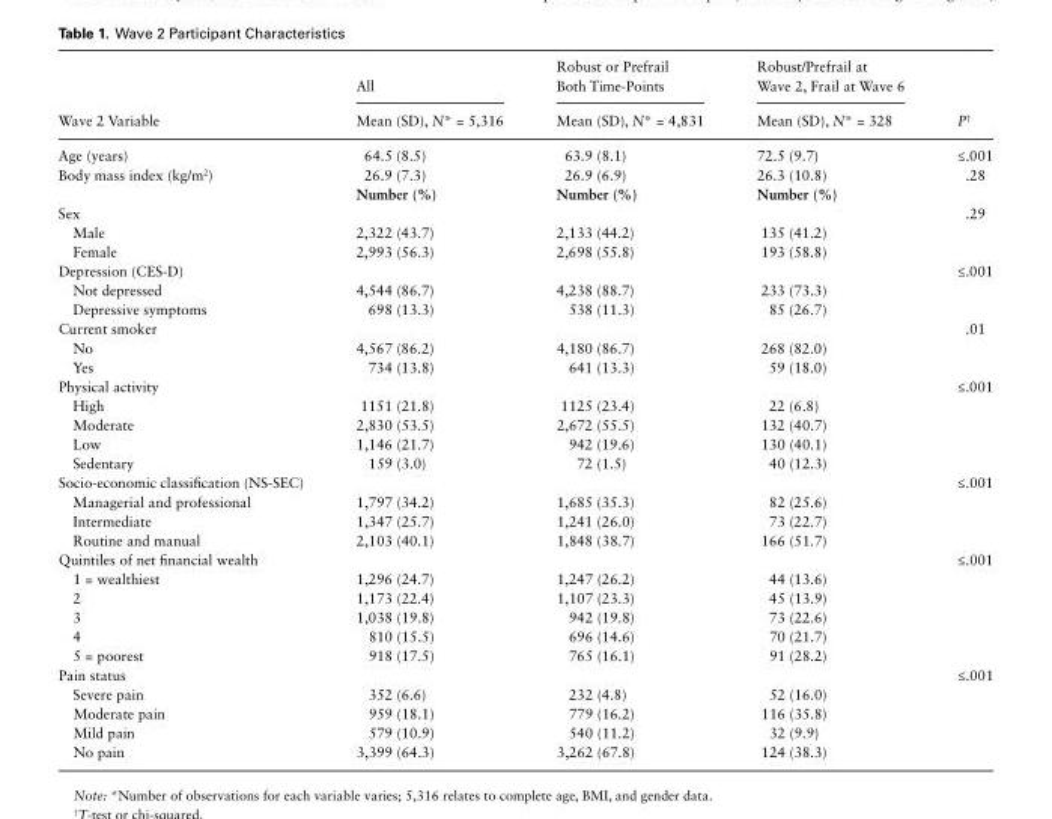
<table><thead><tr><td rowspan="2">Wave 2 Variable</td><td rowspan="2">All Mean (SD), N* = 5,316</td><td rowspan="2">Robust or Prefrail Both Time-Points Mean (SD), N* = 4,831</td><td rowspan="2">Robust/Prefrail at Wave 2, Frail at Wave 6 Mean (SD), N* = 328</td><td rowspan="2">P<sup>†</sup></td></tr><tr></tr></thead><tbody><tr><td>Age (years)</td><td>64.5 (8.5)</td><td>63.9 (8.1)</td><td>72.5 (9.7)</td><td>≤.001</td></tr><tr><td rowspan="2">Body mass index (kg/m<sup>2</sup>)</td><td>26.9 (7.3)</td><td>26.9 (6.9)</td><td>26.3 (10.8)</td><td>.28</td></tr><tr><td>Number (%)</td><td>Number (%)</td><td>Number (%)</td><td></td></tr><tr><td>Sex</td><td></td><td></td><td></td><td>.29</td></tr><tr><td>Male</td><td>2,322 (43.7)</td><td>2,133 (44.2)</td><td>135 (41.2)</td><td></td></tr><tr><td>Female</td><td>2,993 (56.3)</td><td>2,698 (55.8)</td><td>193 (58.8)</td><td></td></tr><tr><td>Depression (CES-D)</td><td></td><td></td><td></td><td>≤.001</td></tr><tr><td>Not depressed</td><td>4,544 (86.7)</td><td>4,238 (88.7)</td><td>233 (73.3)</td><td></td></tr><tr><td>Depressive symptoms</td><td>698 (13.3)</td><td>538 (11.3)</td><td>85 (26.7)</td><td></td></tr><tr><td>Current smoker</td><td></td><td></td><td></td><td>.01</td></tr><tr><td>No</td><td>4,567 (86.2)</td><td>4,180 (86.7)</td><td>268 (82.0)</td><td></td></tr><tr><td>Yes</td><td>734 (13.8)</td><td>641 (13.3)</td><td>59 (18.0)</td><td></td></tr><tr><td>Physical activity</td><td></td><td></td><td></td><td>≤.001</td></tr><tr><td>High</td><td>1151 (21.8)</td><td>1125 (23.4)</td><td>22 (6.8)</td><td></td></tr><tr><td>Moderate</td><td>2,830 (53.5)</td><td>2,672 (55.5)</td><td>132 (40.7)</td><td></td></tr><tr><td>Low</td><td>1,146 (21.7)</td><td>942 (19.6)</td><td>130 (40.1)</td><td></td></tr><tr><td>Sedentary</td><td>159 (3.0)</td><td>72 (1.5)</td><td>40 (12.3)</td><td></td></tr><tr><td>Socio-economic classification (NS-SEC)</td><td></td><td></td><td></td><td>≤.001</td></tr><tr><td>Managerial and professional</td><td>1,797 (34.2)</td><td>1,685 (35.3)</td><td>82 (25.6)</td><td></td></tr><tr><td>Intermediate</td><td>1,347 (25.7)</td><td>1,241 (26.0)</td><td>73 (22.7)</td><td></td></tr><tr><td>Routine and manual</td><td>2,103 (40.1)</td><td>1,848 (38.7)</td><td>166 (51.7)</td><td></td></tr><tr><td>Quintiles of net financial wealth</td><td></td><td></td><td></td><td>≤.001</td></tr><tr><td>1 = wealthiest</td><td>1,296 (24.7)</td><td>1,247 (26.2)</td><td>44 (13.6)</td><td></td></tr><tr><td>2</td><td>1,173 (22.4)</td><td>1,107 (23.3)</td><td>45 (13.9)</td><td></td></tr><tr><td>3</td><td>1,038 (19.8)</td><td>942 (19.8)</td><td>73 (22.6)</td><td></td></tr><tr><td>4</td><td>810 (15.5)</td><td>696 (14.6)</td><td>70 (21.7)</td><td></td></tr><tr><td>5 = poorest</td><td>918 (17.5)</td><td>765 (16.1)</td><td>91 (28.2)</td><td></td></tr><tr><td>Pain status</td><td></td><td></td><td></td><td>≤.001</td></tr><tr><td>Severe pain</td><td>352 (6.6)</td><td>232 (4.8)</td><td>52 (16.0)</td><td></td></tr><tr><td>Moderate pain</td><td>959 (18.1)</td><td>779 (16.2)</td><td>116 (35.8)</td><td></td></tr><tr><td>Mild pain</td><td>579 (10.9)</td><td>540 (11.2)</td><td>32 (9.9)</td><td></td></tr><tr><td>No pain</td><td>3,399 (64.3)</td><td>3,262 (67.8)</td><td>124 (38.3)</td><td></td></tr></tbody></table>